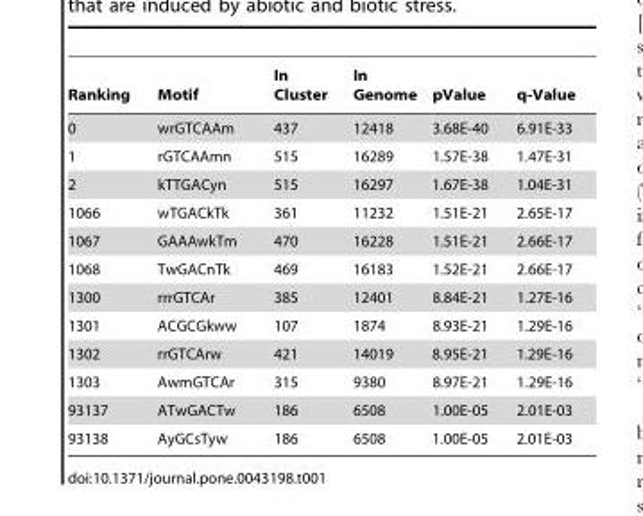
<table><thead><tr><td>Ranking</td><td>Motif</td><td>In Cluster</td><td>In Genome</td><td>pValue</td><td>q-Value</td></tr></thead><tbody><tr><td>0</td><td>wrGTCAAm</td><td>437</td><td>12418</td><td>3.68E-40</td><td>6.91E-33</td></tr><tr><td>1</td><td>rGTCAAmn</td><td>515</td><td>16289</td><td>1.57E-38</td><td>1.47E-31</td></tr><tr><td>2</td><td>kTTGACyn</td><td>515</td><td>16297</td><td>1.67E-38</td><td>1.04E-31</td></tr><tr><td>1066</td><td>wTGACkTk</td><td>361</td><td>11232</td><td>1.51E-21</td><td>2.65E-17</td></tr><tr><td>1067</td><td>GAAAwkTm</td><td>470</td><td>16228</td><td>1.51E-21</td><td>2.66E-17</td></tr><tr><td>1068</td><td>TwGACnTk</td><td>469</td><td>16183</td><td>1.52E-21</td><td>2.66E-17</td></tr><tr><td>1300</td><td>rrrGTCAr</td><td>385</td><td>12401</td><td>8.84E-21</td><td>1.27E-16</td></tr><tr><td>1301</td><td>ACGCGkww</td><td>107</td><td>1874</td><td>8.93E-21</td><td>1.29E-16</td></tr><tr><td>1302</td><td>rrGTCArw</td><td>421</td><td>14019</td><td>8.95E-21</td><td>1.29E-16</td></tr><tr><td>1303</td><td>AwmGTCAr</td><td>315</td><td>9380</td><td>8.97E-21</td><td>1.29E-16</td></tr><tr><td>93137</td><td>ATwGACTw</td><td>186</td><td>6508</td><td>1.00E-05</td><td>2.01E-03</td></tr><tr><td>93138</td><td>AyGCsTyw</td><td>186</td><td>6508</td><td>1.00E-05</td><td>2.01E-03</td></tr></tbody></table>